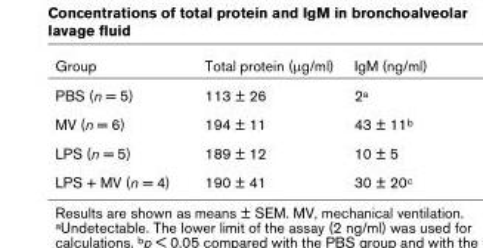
<table><thead><tr><td>Group</td><td>Total protein (µg/ml)</td><td>IgM (ng/ml)</td></tr></thead><tbody><tr><td>PBS (n = 5)</td><td>113 ± 26</td><td>2a</td></tr><tr><td>MV (n = 6)</td><td>194 ± 11</td><td>43 ± 11b</td></tr><tr><td>LPS (n = 5)</td><td>189 ± 12</td><td>10 ± 5</td></tr><tr><td>LPS + MV (n = 4)</td><td>190 ± 41</td><td>30 ± 20c</td></tr></tbody></table>